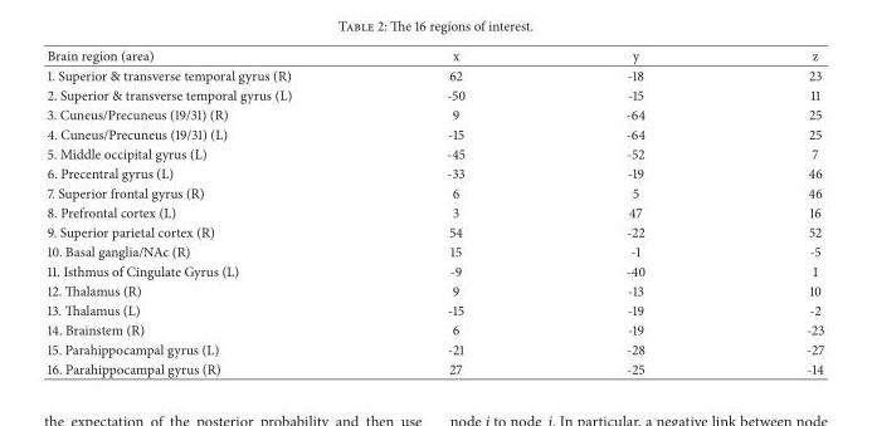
<table><thead><tr><td>Brain region (area)</td><td>x</td><td>y</td><td>z</td></tr></thead><tbody><tr><td>1. Superior &amp; transverse temporal gyrus (R)</td><td>62</td><td>-18</td><td>23</td></tr><tr><td>2. Superior &amp; transverse temporal gyrus (L)</td><td>-50</td><td>-15</td><td>11</td></tr><tr><td>3. Cuneus/Precuneus (19/31) (R)</td><td>9</td><td>-64</td><td>25</td></tr><tr><td>4. Cuneus/Precuneus (19/31) (L)</td><td>-15</td><td>-64</td><td>25</td></tr><tr><td>5. Middle occipital gyrus (L)</td><td>-45</td><td>-52</td><td>7</td></tr><tr><td>6. Precentral gyrus (L)</td><td>-33</td><td>-19</td><td>46</td></tr><tr><td>7. Superior frontal gyrus (R)</td><td>6</td><td>5</td><td>46</td></tr><tr><td>8. Prefrontal cortex (L)</td><td>3</td><td>47</td><td>16</td></tr><tr><td>9. Superior parietal cortex (R)</td><td>54</td><td>-22</td><td>52</td></tr><tr><td>10. Basal ganglia/NAc (R)</td><td>15</td><td>-1</td><td>-5</td></tr><tr><td>11. Isthmus of Cingulate Gyrus (L)</td><td>-9</td><td>-40</td><td>1</td></tr><tr><td>12. Thalamus (R)</td><td>9</td><td>-13</td><td>10</td></tr><tr><td>13. Thalamus (L)</td><td>-15</td><td>-19</td><td>-2</td></tr><tr><td>14. Brainstem (R)</td><td>6</td><td>-19</td><td>-23</td></tr><tr><td>15. Parahippocampal gyrus (L)</td><td>-21</td><td>-28</td><td>-27</td></tr><tr><td>16. Parahippocampal gyrus (R)</td><td>27</td><td>-25</td><td>-14</td></tr></tbody></table>